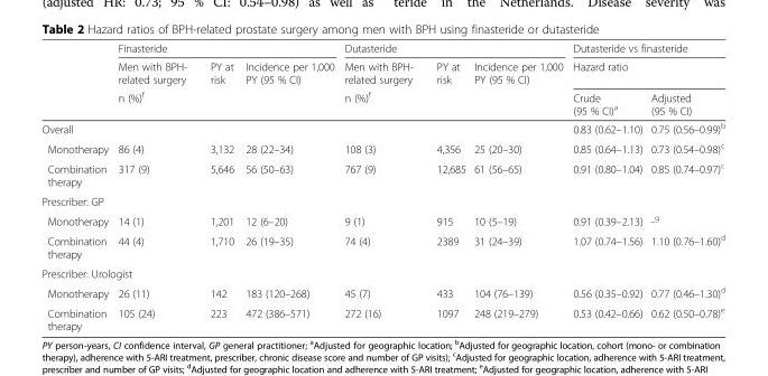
<table><thead><tr><td rowspan="3"></td><td colspan="3">Finasteride</td><td colspan="3">Dutasteride</td><td rowspan="2" colspan="2">Dutasteride vs finasteride Hazard ratio</td></tr><tr><td rowspan="2">Men with BPH- related surgery n (%)<sup>f</sup></td><td rowspan="2">PY at risk</td><td rowspan="2">Incidence per 1,000 PY (95 % CI)</td><td rowspan="2">Men with BPH- related surgery n (%)<sup>f</sup></td><td rowspan="2">PY at risk</td><td rowspan="2">Incidence per 1,000 PY (95 % CI)</td></tr><tr><td>Crude (95 % CI)<sup>a</sup></td><td>Adjusted (95 % CI)</td></tr></thead><tbody><tr><td>Overall</td><td></td><td></td><td></td><td></td><td></td><td></td><td>0.83 (0.62–1.10)</td><td>0.75 (0.56–0.99)<sup>b</sup></td></tr><tr><td>Monotherapy</td><td>86 (4)</td><td>3,132</td><td>28 (22–34)</td><td>108 (3)</td><td>4,356</td><td>25 (20–30)</td><td>0.85 (0.64–1.13)</td><td>0.73 (0.54–0.98)<sup>c</sup></td></tr><tr><td>Combination therapy</td><td>317 (9)</td><td>5,646</td><td>56 (50–63)</td><td>767 (9)</td><td>12,685</td><td>61 (56–65)</td><td>0.91 (0.80–1.04)</td><td>0.85 (0.74–0.97)<sup>c</sup></td></tr><tr><td colspan="9">Prescriber: GP</td></tr><tr><td>Monotherapy</td><td>14 (1)</td><td>1,201</td><td>12 (6–20)</td><td>9 (1)</td><td>915</td><td>10 (5–19)</td><td>0.91 (0.39–2.13)</td><td>-<sup>g</sup></td></tr><tr><td>Combination therapy</td><td>44 (4)</td><td>1,710</td><td>26 (19–35)</td><td>74 (4)</td><td>2389</td><td>31 (24–39)</td><td>1.07 (0.74–1.56)</td><td>1.10 (0.76–1.60)<sup>d</sup></td></tr><tr><td colspan="9">Prescriber: Urologist</td></tr><tr><td>Monotherapy</td><td>26 (11)</td><td>142</td><td>183 (120–268)</td><td>45 (7)</td><td>433</td><td>104 (76–139)</td><td>0.56 (0.35–0.92)</td><td>0.77 (0.46–1.30)<sup>d</sup></td></tr><tr><td>Combination therapy</td><td>105 (24)</td><td>223</td><td>472 (386–571)</td><td>272 (16)</td><td>1097</td><td>248 (219–279)</td><td>0.53 (0.42–0.66)</td><td>0.62 (0.50–0.78)<sup>e</sup></td></tr></tbody></table>